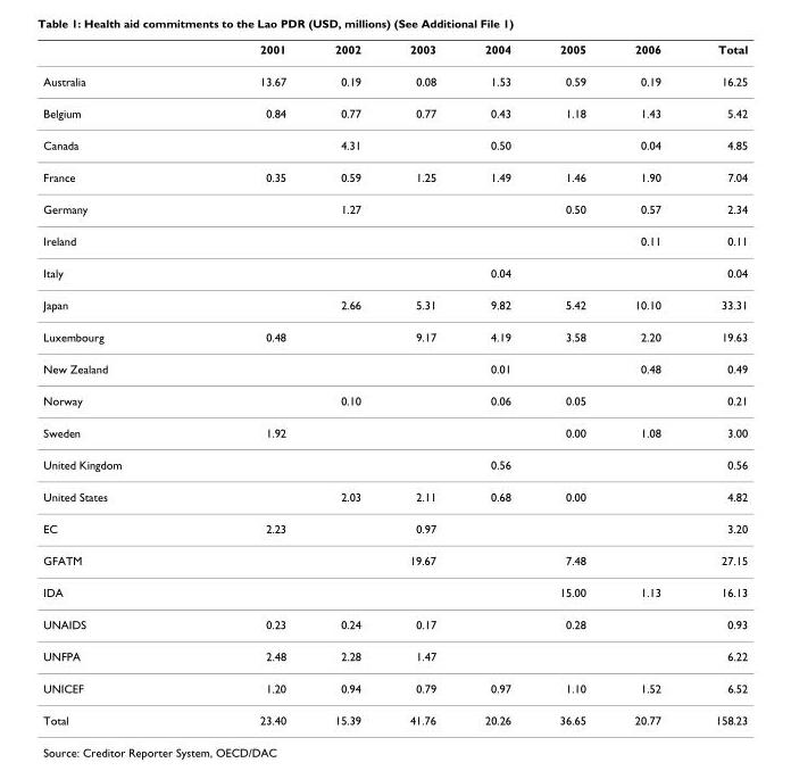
<table><thead><tr><td></td><td>2001</td><td>2002</td><td>2003</td><td>2004</td><td>2005</td><td>2006</td><td>Total</td></tr></thead><tbody><tr><td>Australia</td><td>13.67</td><td>0.19</td><td>0.08</td><td>1.53</td><td>0.59</td><td>0.19</td><td>16.25</td></tr><tr><td>Belgium</td><td>0.84</td><td>0.77</td><td>0.77</td><td>0.43</td><td>1.18</td><td>1.43</td><td>5.42</td></tr><tr><td>Canada</td><td></td><td>4.31</td><td></td><td>0.50</td><td></td><td>0.04</td><td>4.85</td></tr><tr><td>France</td><td>0.35</td><td>0.59</td><td>1.25</td><td>1.49</td><td>1.46</td><td>1.90</td><td>7.04</td></tr><tr><td>Germany</td><td></td><td>1.27</td><td></td><td></td><td>0.50</td><td>0.57</td><td>2.34</td></tr><tr><td>Ireland</td><td></td><td></td><td></td><td></td><td></td><td>0.11</td><td>0.11</td></tr><tr><td>Italy</td><td></td><td></td><td></td><td>0.04</td><td></td><td></td><td>0.04</td></tr><tr><td>Japan</td><td></td><td>2.66</td><td>5.31</td><td>9.82</td><td>5.42</td><td>10.10</td><td>33.31</td></tr><tr><td>Luxembourg</td><td>0.48</td><td></td><td>9.17</td><td>4.19</td><td>3.58</td><td>2.20</td><td>19.63</td></tr><tr><td>New Zealand</td><td></td><td></td><td></td><td>0.01</td><td></td><td>0.48</td><td>0.49</td></tr><tr><td>Norway</td><td></td><td>0.10</td><td></td><td>0.06</td><td>0.05</td><td></td><td>0.21</td></tr><tr><td>Sweden</td><td>1.92</td><td></td><td></td><td></td><td>0.00</td><td>1.08</td><td>3.00</td></tr><tr><td>United Kingdom</td><td></td><td></td><td></td><td>0.56</td><td></td><td></td><td>0.56</td></tr><tr><td>United States</td><td></td><td>2.03</td><td>2.11</td><td>0.68</td><td>0.00</td><td></td><td>4.82</td></tr><tr><td>EC</td><td>2.23</td><td></td><td>0.97</td><td></td><td></td><td></td><td>3.20</td></tr><tr><td>GFATM</td><td></td><td></td><td>19.67</td><td></td><td>7.48</td><td></td><td>27.15</td></tr><tr><td>IDA</td><td></td><td></td><td></td><td></td><td>15.00</td><td>1.13</td><td>16.13</td></tr><tr><td>UNAIDS</td><td>0.23</td><td>0.24</td><td>0.17</td><td></td><td>0.28</td><td></td><td>0.93</td></tr><tr><td>UNFPA</td><td>2.48</td><td>2.28</td><td>1.47</td><td></td><td></td><td></td><td>6.22</td></tr><tr><td>UNICEF</td><td>1.20</td><td>0.94</td><td>0.79</td><td>0.97</td><td>1.10</td><td>1.52</td><td>6.52</td></tr><tr><td>Total</td><td>23.40</td><td>15.39</td><td>41.76</td><td>20.26</td><td>36.65</td><td>20.77</td><td>158.23</td></tr></tbody></table>